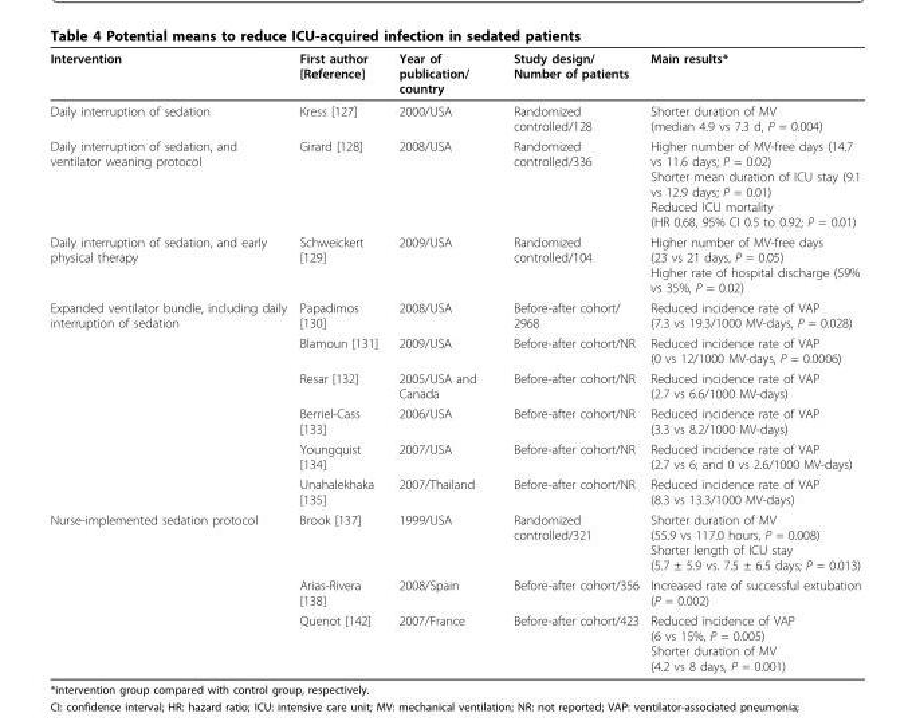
<table><thead><tr><td>Intervention</td><td>First author [Reference]</td><td>Year of publication/ country</td><td>Study design/ Number of patients</td><td>Main results*</td></tr></thead><tbody><tr><td>Daily interruption of sedation</td><td>Kress [127]</td><td>2000/USA</td><td>Randomized controlled/128</td><td>Shorter duration of MV (median 4.9 vs 7.3 d, P = 0.004)</td></tr><tr><td>Daily interruption of sedation, and ventilator weaning protocol</td><td>Girard [128]</td><td>2008/USA</td><td>Randomized controlled/336</td><td>Higher number of MV-free days (14.7 vs 11.6 days; P = 0.02) Shorter mean duration of ICU stay (9.1 vs 12.9 days; P = 0.01) Reduced ICU mortality (HR 0.68, 95% CI 0.5 to 0.92; P = 0.01)</td></tr><tr><td>Daily interruption of sedation, and early physical therapy</td><td>Schweickert [129]</td><td>2009/USA</td><td>Randomized controlled/104</td><td>Higher number of MV-free days (23 vs 21 days, P = 0.05) Higher rate of hospital discharge (59% vs 35%, P = 0.02)</td></tr><tr><td rowspan="6">Expanded ventilator bundle, including daily interruption of sedation</td><td>Papadimos [130]</td><td>2008/USA</td><td>Before-after cohort/ 2968</td><td>Reduced incidence rate of VAP (7.3 vs 19.3/1000 MV-days, P = 0.028)</td></tr><tr><td>Blamoun [131]</td><td>2009/USA</td><td>Before-after cohort/NR</td><td>Reduced incidence rate of VAP (0 vs 12/1000 MV-days, P = 0.0006)</td></tr><tr><td>Resar [132]</td><td>2005/USA and Canada</td><td>Before-after cohort/NR</td><td>Reduced incidence rate of VAP (2.7 vs 6.6/1000 MV-days)</td></tr><tr><td>Berriel-Cass [133]</td><td>2006/USA</td><td>Before-after cohort/NR</td><td>Reduced incidence rate of VAP (3.3 vs 8.2/1000 MV-days)</td></tr><tr><td>Youngquist [134]</td><td>2007/USA</td><td>Before-after cohort/NR</td><td>Reduced incidence rate of VAP (2.7 vs 6; and 0 vs 2.6/1000 MV-days)</td></tr><tr><td>Unahalekhaka [135]</td><td>2007/Thailand</td><td>Before-after cohort/NR</td><td>Reduced incidence rate of VAP (8.3 vs 13.3/1000 MV-days)</td></tr><tr><td rowspan="3">Nurse-implemented sedation protocol</td><td>Brook [137]</td><td>1999/USA</td><td>Randomized controlled/321</td><td>Shorter duration of MV (55.9 vs 117.0 hours, P = 0.008) Shorter length of ICU stay (5.7 ± 5.9 vs. 7.5 ± 6.5 days; P = 0.013)</td></tr><tr><td>Arias-Rivera [138]</td><td>2008/Spain</td><td>Before-after cohort/356</td><td>Increased rate of successful extubation (P = 0.002)</td></tr><tr><td>Quenot [142]</td><td>2007/France</td><td>Before-after cohort/423</td><td>Reduced incidence of VAP (6 vs 15%, P = 0.005) Shorter duration of MV (4.2 vs 8 days, P = 0.001)</td></tr></tbody></table>